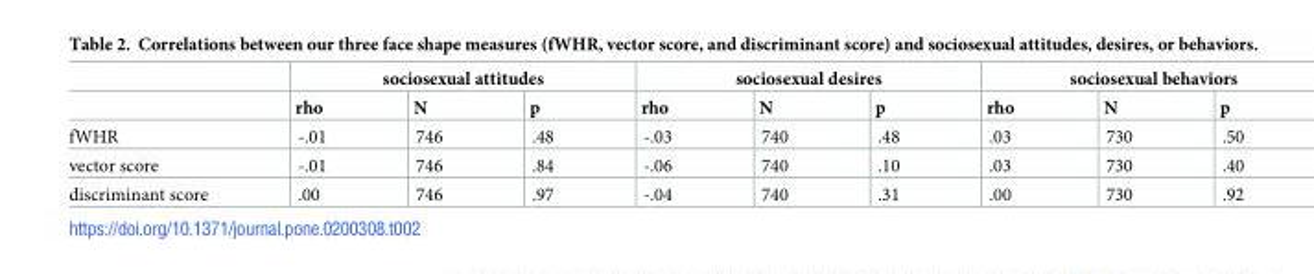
<table><thead><tr><td rowspan="2"></td><td colspan="3">sociosexual attitudes</td><td colspan="3">sociosexual desires</td><td colspan="3">sociosexual behaviors</td></tr><tr><td>rho</td><td>N</td><td>p</td><td>rho</td><td>N</td><td>p</td><td>rho</td><td>N</td><td>p</td></tr></thead><tbody><tr><td>fWHR</td><td>-.01</td><td>746</td><td>.48</td><td>-.03</td><td>740</td><td>.48</td><td>.03</td><td>730</td><td>.50</td></tr><tr><td>vector score</td><td>-.01</td><td>746</td><td>.84</td><td>-.06</td><td>740</td><td>.10</td><td>.03</td><td>730</td><td>.40</td></tr><tr><td>discriminant score</td><td>.00</td><td>746</td><td>.97</td><td>-.04</td><td>740</td><td>.31</td><td>.00</td><td>730</td><td>.92</td></tr></tbody></table>